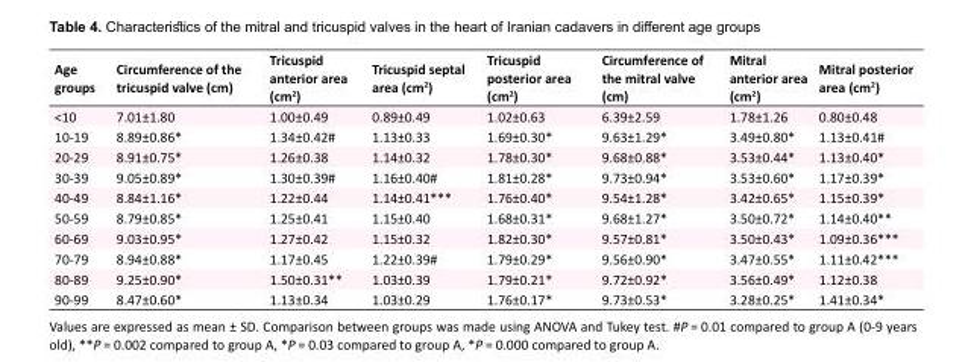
<table><tbody><tr><td>Age groups</td><td>Circumference of the tricuspid valve (cm)</td><td>Tricuspid anterior area (cm<sup>2</sup>)</td><td>Tricuspid septal area (cm<sup>2</sup>)</td><td>Tricuspid posterior area (cm<sup>2</sup>)</td><td>Circumference of the mitral valve (cm)</td><td>Mitral anterior area (cm<sup>2</sup>)</td><td>Mitral posterior area (cm<sup>2</sup>)</td></tr><tr><td>&lt;10</td><td>7.01±1.80</td><td>1.00±0.49</td><td>0.89±0.49</td><td>1.02±0.63</td><td>6.39±2.59</td><td>1.78±1.26</td><td>0.80±0.48</td></tr><tr><td>10-19</td><td>8.89±0.86*</td><td>1.34±0.42#</td><td>1.13±0.33</td><td>1.69±0.30*</td><td>9.63±1.29*</td><td>3.49±0.80*</td><td>1.13±0.41#</td></tr><tr><td>20-29</td><td>8.91±0.75*</td><td>1.26±0.38</td><td>1.14±0.32</td><td>1.78±0.30*</td><td>9.68±0.88*</td><td>3.53±0.44*</td><td>1.13±0.40*</td></tr><tr><td>30-39</td><td>9.05±0.89*</td><td>1.30±0.39#</td><td>1.16±0.40#</td><td>1.81±0.28*</td><td>9.73±0.94*</td><td>3.53±0.60*</td><td>1.17±0.39*</td></tr><tr><td>40-49</td><td>8.84±1.16*</td><td>1.22±0.44</td><td>1.14±0.41***</td><td>1.76±0.40*</td><td>9.54±1.28*</td><td>3.42±0.65*</td><td>1.15±0.39*</td></tr><tr><td>50-59</td><td>8.79±0.85*</td><td>1.25±0.41</td><td>1.15±0.40</td><td>1.68±0.31*</td><td>9.68±1.27*</td><td>3.50±0.72*</td><td>1.14±0.40**</td></tr><tr><td>60-69</td><td>9.03±0.95*</td><td>1.27±0.42</td><td>1.15±0.32</td><td>1.82±0.30*</td><td>9.57±0.81*</td><td>3.50±0.43*</td><td>1.09±0.36***</td></tr><tr><td>70-79</td><td>8.94±0.88*</td><td>1.17±0.45</td><td>1.22±0.39#</td><td>1.79±0.29*</td><td>9.56±0.90*</td><td>3.47±0.55*</td><td>1.11±0.42***</td></tr><tr><td>80-89</td><td>9.25±0.90*</td><td>1.50±0.31**</td><td>1.03±0.39</td><td>1.79±0.21*</td><td>9.72±0.92*</td><td>3.56±0.49*</td><td>1.12±0.38</td></tr><tr><td>90-99</td><td>8.47±0.60*</td><td>1.13±0.34</td><td>1.03±0.29</td><td>1.76±0.17*</td><td>9.73±0.53*</td><td>3.28±0.25*</td><td>1.41±0.34*</td></tr></tbody></table>